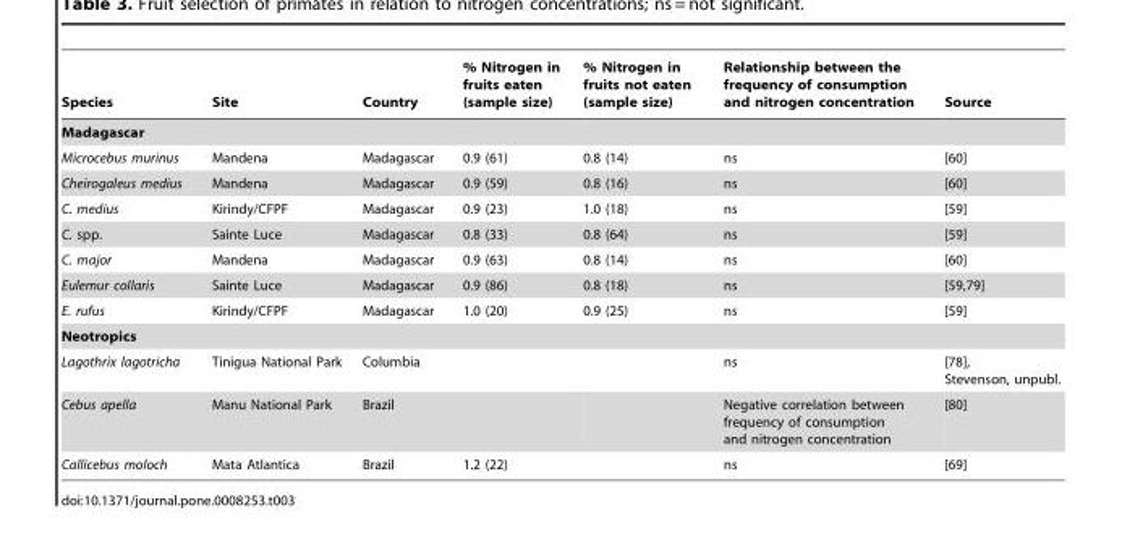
<table><thead><tr><td>Species</td><td>Site</td><td>Country</td><td>% Nitrogen in fruits eaten (sample size)</td><td>% Nitrogen in fruits not eaten (sample size)</td><td>Relationship between the frequency of consumption and nitrogen concentration</td><td>Source</td></tr></thead><tbody><tr><td colspan="7">Madagascar</td></tr><tr><td>Microcebus murinus</td><td>Mandena</td><td>Madagascar</td><td>0.9 (61)</td><td>0.8 (14)</td><td>ns</td><td>[60]</td></tr><tr><td>Cheirogaleus medius</td><td>Mandena</td><td>Madagascar</td><td>0.9 (59)</td><td>0.8 (16)</td><td>ns</td><td>[60]</td></tr><tr><td>C. medius</td><td>Kirindy/CFPF</td><td>Madagascar</td><td>0.9 (23)</td><td>1.0 (18)</td><td>ns</td><td>[59]</td></tr><tr><td>C. spp.</td><td>Sainte Luce</td><td>Madagascar</td><td>0.8 (33)</td><td>0.8 (64)</td><td>ns</td><td>[59]</td></tr><tr><td>C. major</td><td>Mandena</td><td>Madagascar</td><td>0.9 (63)</td><td>0.8 (14)</td><td>ns</td><td>[60]</td></tr><tr><td>Eulemur collaris</td><td>Sainte Luce</td><td>Madagascar</td><td>0.9 (86)</td><td>0.8 (18)</td><td>ns</td><td>[59,79]</td></tr><tr><td>E. rufus</td><td>Kirindy/CFPF</td><td>Madagascar</td><td>1.0 (20)</td><td>0.9 (25)</td><td>ns</td><td>[59]</td></tr><tr><td colspan="7">Neotropics</td></tr><tr><td>Lagothrix lagotricha</td><td>Tinigua National Park</td><td>Columbia</td><td></td><td></td><td>ns</td><td>[78], Stevenson, unpubl.</td></tr><tr><td>Cebus apella</td><td>Manu National Park</td><td>Brazil</td><td></td><td></td><td>Negative correlation between frequency of consumption and nitrogen concentration</td><td>[80]</td></tr><tr><td>Callicebus moloch</td><td>Mata Atlantica</td><td>Brazil</td><td>1.2 (22)</td><td></td><td>ns</td><td>[69]</td></tr></tbody></table>